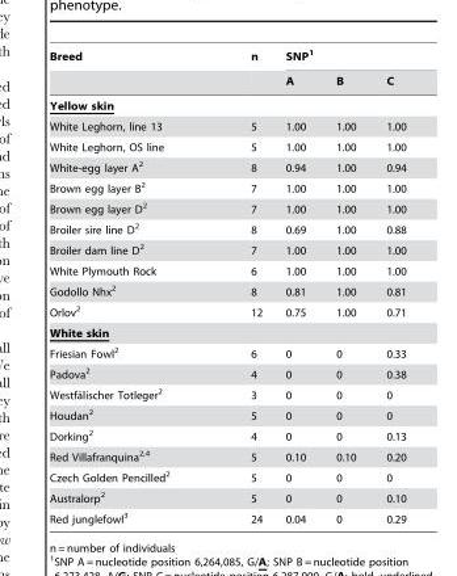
<table><thead><tr><td rowspan="2">Breed</td><td rowspan="2">n</td><td colspan="3">SNP<sup>1</sup></td></tr><tr><td>A</td><td>B</td><td>C</td></tr></thead><tbody><tr><td colspan="5">Yellow skin</td></tr><tr><td>White Leghorn, line 13</td><td>5</td><td>1.00</td><td>1.00</td><td>1.00</td></tr><tr><td>White Leghorn, OS line</td><td>5</td><td>1.00</td><td>1.00</td><td>1.00</td></tr><tr><td>White-egg layer A<sup>2</sup></td><td>8</td><td>0.94</td><td>1.00</td><td>0.94</td></tr><tr><td>Brown egg layer B<sup>2</sup></td><td>7</td><td>1.00</td><td>1.00</td><td>1.00</td></tr><tr><td>Brown egg layer D<sup>2</sup></td><td>7</td><td>1.00</td><td>1.00</td><td>1.00</td></tr><tr><td>Broiler sire line D<sup>2</sup></td><td>8</td><td>0.69</td><td>1.00</td><td>0.88</td></tr><tr><td>Broiler dam line D<sup>2</sup></td><td>7</td><td>1.00</td><td>1.00</td><td>1.00</td></tr><tr><td>White Plymouth Rock</td><td>6</td><td>1.00</td><td>1.00</td><td>1.00</td></tr><tr><td>Godollo Nhx<sup>2</sup></td><td>8</td><td>0.81</td><td>1.00</td><td>0.81</td></tr><tr><td>Orlov<sup>2</sup></td><td>12</td><td>0.75</td><td>1.00</td><td>0.71</td></tr><tr><td colspan="5">White skin</td></tr><tr><td>Friesian Fowl<sup>2</sup></td><td>6</td><td>0</td><td>0</td><td>0.33</td></tr><tr><td>Padova<sup>2</sup></td><td>4</td><td>0</td><td>0</td><td>0.38</td></tr><tr><td>Westfa¨lischer Totleger2</td><td>3</td><td>0</td><td>0</td><td>0</td></tr><tr><td>Houdan<sup>2</sup></td><td>5</td><td>0</td><td>0</td><td>0</td></tr><tr><td>Dorking<sup>2</sup></td><td>4</td><td>0</td><td>0</td><td>0.13</td></tr><tr><td>Red Villafranquina<sup>2,4</sup></td><td>5</td><td>0.10</td><td>0.10</td><td>0.20</td></tr><tr><td>Czech Golden Pencilled<sup>2</sup></td><td>5</td><td>0</td><td>0</td><td>0</td></tr><tr><td>Australorp<sup>2</sup></td><td>5</td><td>0</td><td>0</td><td>0.10</td></tr><tr><td>Red junglefowl<sup>3</sup></td><td>24</td><td>0.04</td><td>0</td><td>0.29</td></tr></tbody></table>